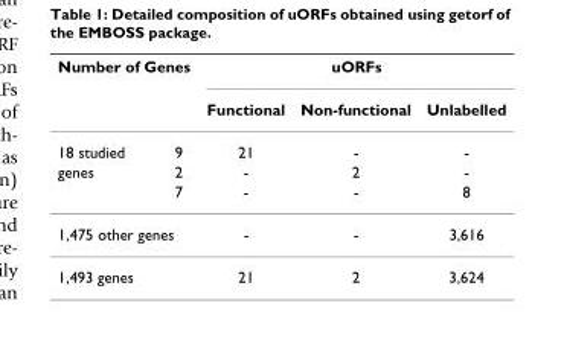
<table><thead><tr><td colspan="2">Number of Genes</td><td colspan="3">uORFs</td></tr><tr><td></td><td></td><td>Functional</td><td>Non-functional</td><td>Unlabelled</td></tr></thead><tbody><tr><td>18 studied</td><td>9</td><td>21</td><td>-</td><td>-</td></tr><tr><td rowspan="2">genes</td><td>2</td><td>-</td><td>2</td><td>-</td></tr><tr><td>7</td><td>-</td><td>-</td><td>8</td></tr><tr><td colspan="2">1,475 other genes</td><td>-</td><td>-</td><td>3,616</td></tr><tr><td>1,493 genes</td><td></td><td>21</td><td>2</td><td>3,624</td></tr></tbody></table>